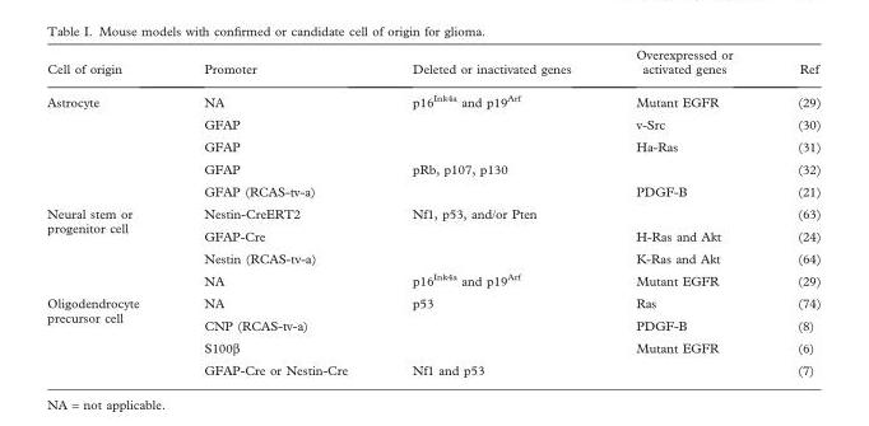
<table><thead><tr><td>Cell of origin</td><td>Promoter</td><td>Deleted or inactivated genes</td><td>Overexpressed or activated genes</td><td>Ref</td></tr></thead><tbody><tr><td rowspan="5">Astrocyte</td><td>NA</td><td>p16<sup>Ink4a</sup> and p19<sup>Arf</sup></td><td>Mutant EGFR</td><td>(29)</td></tr><tr><td>GFAP</td><td></td><td>v-Src</td><td>(30)</td></tr><tr><td>GFAP</td><td></td><td>Ha-Ras</td><td>(31)</td></tr><tr><td>GFAP</td><td>pRb, p107, p130</td><td></td><td>(32)</td></tr><tr><td>GFAP (RCAS-tv-a)</td><td></td><td>PDGF-B</td><td>(21)</td></tr><tr><td rowspan="4">Neural stem or progenitor cell</td><td>Nestin-CreERT2</td><td>Nf1, p53, and/or Pten</td><td></td><td>(63)</td></tr><tr><td>GFAP-Cre</td><td></td><td>H-Ras and Akt</td><td>(24)</td></tr><tr><td>Nestin (RCAS-tv-a)</td><td></td><td>K-Ras and Akt</td><td>(64)</td></tr><tr><td>NA</td><td>p16<sup>Ink4a</sup> and p19<sup>Arf</sup></td><td>Mutant EGFR</td><td>(29)</td></tr><tr><td rowspan="4">Oligodendrocyte precursor cell</td><td>NA</td><td>p53</td><td>Ras</td><td>(74)</td></tr><tr><td>CNP (RCAS-tv-a)</td><td></td><td>PDGF-B</td><td>(8)</td></tr><tr><td>S100β</td><td></td><td>Mutant EGFR</td><td>(6)</td></tr><tr><td>GFAP-Cre or Nestin-Cre</td><td>Nf1 and p53</td><td></td><td>(7)</td></tr></tbody></table>